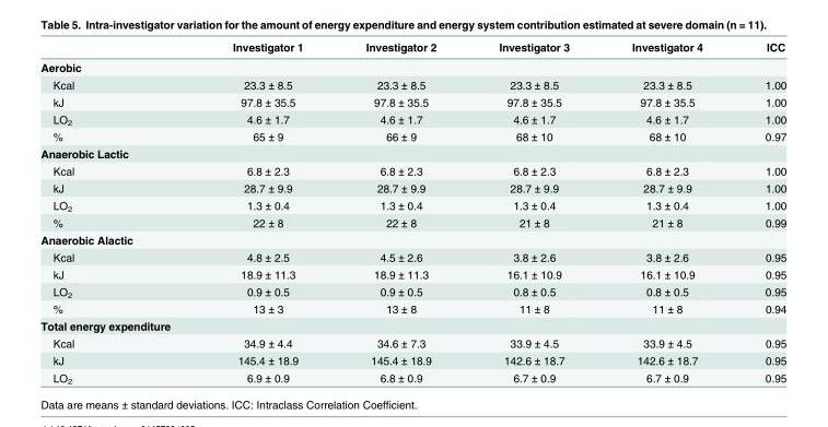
<table><thead><tr><td></td><td>Investigator 1</td><td>Investigator 2</td><td>Investigator 3</td><td>Investigator 4</td><td>ICC</td></tr></thead><tbody><tr><td colspan="6">Aerobic</td></tr><tr><td>Kcal</td><td>23.3 ± 8.5</td><td>23.3 ± 8.5</td><td>23.3 ± 8.5</td><td>23.3 ± 8.5</td><td>1.00</td></tr><tr><td>kJ</td><td>97.8 ± 35.5</td><td>97.8 ± 35.5</td><td>97.8 ± 35.5</td><td>97.8 ± 35.5</td><td>1.00</td></tr><tr><td>LO<sub>2</sub></td><td>4.6 ± 1.7</td><td>4.6 ± 1.7</td><td>4.6 ± 1.7</td><td>4.6 ± 1.7</td><td>1.00</td></tr><tr><td>%</td><td>65 ± 9</td><td>66 ± 9</td><td>68 ± 10</td><td>68 ± 10</td><td>0.97</td></tr><tr><td colspan="6">Anaerobic Lactic</td></tr><tr><td>Kcal</td><td>6.8 ± 2.3</td><td>6.8 ± 2.3</td><td>6.8 ± 2.3</td><td>6.8 ± 2.3</td><td>1.00</td></tr><tr><td>kJ</td><td>28.7 ± 9.9</td><td>28.7 ± 9.9</td><td>28.7 ± 9.9</td><td>28.7 ± 9.9</td><td>1.00</td></tr><tr><td>LO<sub>2</sub></td><td>1.3 ± 0.4</td><td>1.3 ± 0.4</td><td>1.3 ± 0.4</td><td>1.3 ± 0.4</td><td>1.00</td></tr><tr><td>%</td><td>22 ± 8</td><td>22 ± 8</td><td>21 ± 8</td><td>21 ± 8</td><td>0.99</td></tr><tr><td colspan="6">Anaerobic Alactic</td></tr><tr><td>Kcal</td><td>4.8 ± 2.5</td><td>4.5 ± 2.6</td><td>3.8 ± 2.6</td><td>3.8 ± 2.6</td><td>0.95</td></tr><tr><td>kJ</td><td>18.9 ± 11.3</td><td>18.9 ± 11.3</td><td>16.1 ± 10.9</td><td>16.1 ± 10.9</td><td>0.95</td></tr><tr><td>LO<sub>2</sub></td><td>0.9 ± 0.5</td><td>0.9 ± 0.5</td><td>0.8 ± 0.5</td><td>0.8 ± 0.5</td><td>0.95</td></tr><tr><td>%</td><td>13 ± 3</td><td>13 ± 8</td><td>11 ± 8</td><td>11 ± 8</td><td>0.94</td></tr><tr><td colspan="6">Total energy expenditure</td></tr><tr><td>Kcal</td><td>34.9 ± 4.4</td><td>34.6 ± 7.3</td><td>33.9 ± 4.5</td><td>33.9 ± 4.5</td><td>0.95</td></tr><tr><td>kJ</td><td>145.4 ± 18.9</td><td>145.4 ± 18.9</td><td>142.6 ± 18.7</td><td>142.6 ± 18.7</td><td>0.95</td></tr><tr><td>LO<sub>2</sub></td><td>6.9 ± 0.9</td><td>6.8 ± 0.9</td><td>6.7 ± 0.9</td><td>6.7 ± 0.9</td><td>0.95</td></tr></tbody></table>